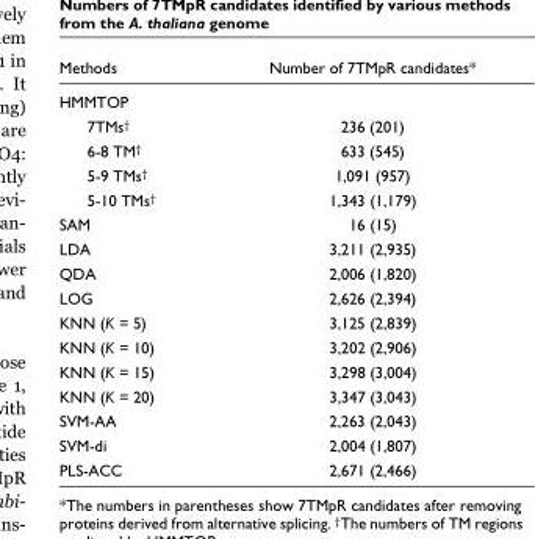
<table><thead><tr><td>Methods</td><td>Number of 7TMpR candidates*</td></tr></thead><tbody><tr><td colspan="2">HMMTOP</td></tr><tr><td>7TMs†</td><td>236 (201)</td></tr><tr><td>6-8 TM†</td><td>633 (545)</td></tr><tr><td>5-9 TMs†</td><td>1,091 (957)</td></tr><tr><td>5-10 TMs†</td><td>1,343 (1,179)</td></tr><tr><td>SAM</td><td>16 (15)</td></tr><tr><td>LDA</td><td>3,211 (2,935)</td></tr><tr><td>QDA</td><td>2,006 (1,820)</td></tr><tr><td>LOG</td><td>2,626 (2,394)</td></tr><tr><td>KNN (K = 5)</td><td>3,125 (2,839)</td></tr><tr><td>KNN (K = 10)</td><td>3,202 (2,906)</td></tr><tr><td>KNN (K = 15)</td><td>3,298 (3,004)</td></tr><tr><td>KNN (K = 20)</td><td>3,347 (3,043)</td></tr><tr><td>SVM-AA</td><td>2,263 (2,043)</td></tr><tr><td>SVM-di</td><td>2,004 (1,807)</td></tr><tr><td>PLS-ACC</td><td>2,671 (2,466)</td></tr></tbody></table>